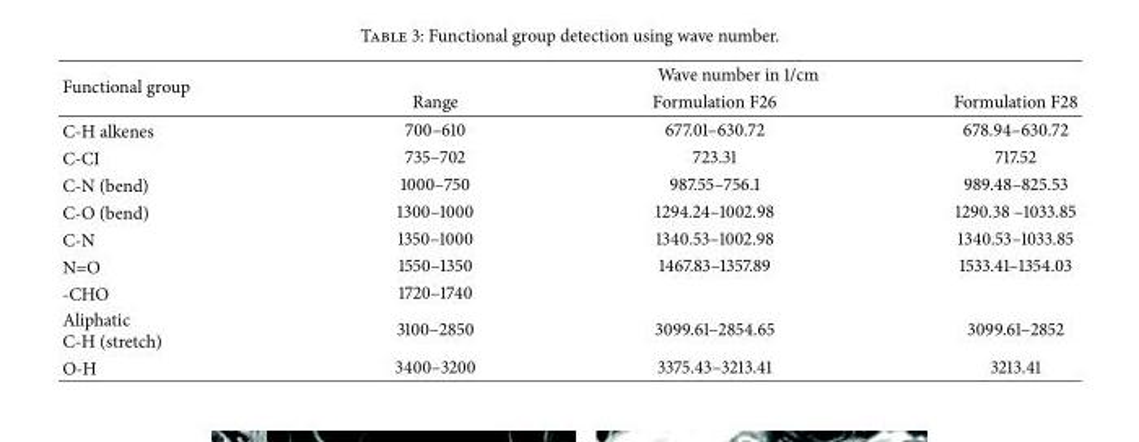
<table><thead><tr><td rowspan="2">Functional group</td><td colspan="3">Wave number in 1/cm</td></tr><tr><td>Range</td><td>Formulation F26</td><td>Formulation F28</td></tr></thead><tbody><tr><td>C-H alkenes</td><td>700–610</td><td>677.01–630.72</td><td>678.94–630.72</td></tr><tr><td>C-CI</td><td>735–702</td><td>723.31</td><td>717.52</td></tr><tr><td>C-N (bend)</td><td>1000–750</td><td>987.55–756.1</td><td>989.48–825.53</td></tr><tr><td>C-O (bend)</td><td>1300–1000</td><td>1294.24–1002.98</td><td>1290.38 –1033.85</td></tr><tr><td>C-N</td><td>1350–1000</td><td>1340.53–1002.98</td><td>1340.53–1033.85</td></tr><tr><td>N=O</td><td>1550–1350</td><td>1467.83–1357.89</td><td>1533.41–1354.03</td></tr><tr><td>-CHO</td><td>1720–1740</td><td></td><td></td></tr><tr><td>Aliphatic C-H (stretch)</td><td>3100–2850</td><td>3099.61–2854.65</td><td>3099.61–2852</td></tr><tr><td>O-H</td><td>3400–3200</td><td>3375.43–3213.41</td><td>3213.41</td></tr></tbody></table>